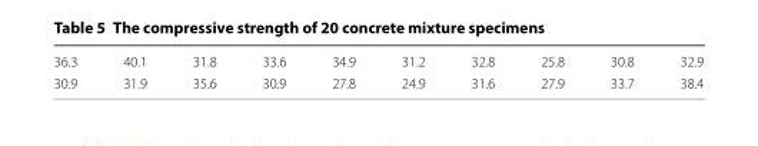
<table><tbody><tr><td>36.3</td><td>40.1</td><td>31.8</td><td>33.6</td><td>34.9</td><td>31.2</td><td>32.8</td><td>25.8</td><td>30.8</td><td>32.9</td></tr><tr><td>30.9</td><td>31.9</td><td>35.6</td><td>30.9</td><td>27.8</td><td>24.9</td><td>31.6</td><td>27.9</td><td>33.7</td><td>38.4</td></tr></tbody></table>